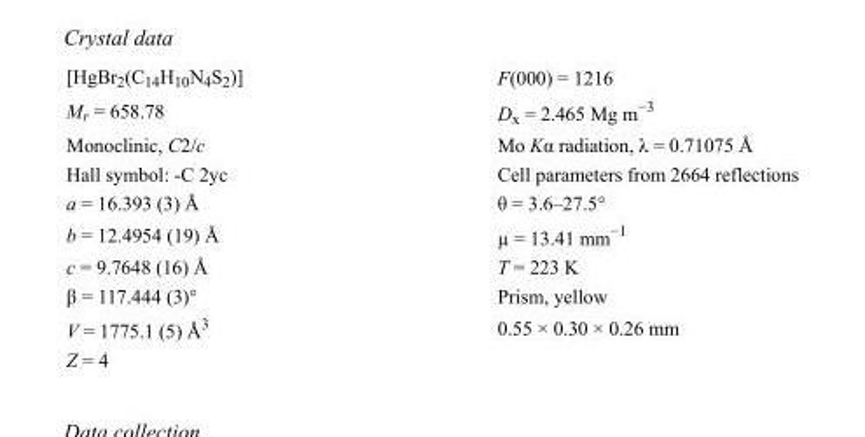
<table><tbody><tr><td>[HgBr<sub>2</sub>(C<sub>14</sub>H<sub>10</sub>N<sub>4</sub>S<sub>2</sub>)]</td><td>F(000) = 1216</td></tr><tr><td>M<sub>r</sub> = 658.78</td><td>D<sub>x</sub> = 2.465 Mg m<sup>−3</sup></td></tr><tr><td>Monoclinic, C2/c</td><td>Mo Kα radiation, λ = 0.71075 Å</td></tr><tr><td>Hall symbol: -C 2yc</td><td>Cell parameters from 2664 reflections</td></tr><tr><td>a = 16.393 (3) Å</td><td>θ = 3.6–27.5°</td></tr><tr><td>b = 12.4954 (19) Å</td><td>µ = 13.41 mm<sup>−1</sup></td></tr><tr><td>c = 9.7648 (16) Å</td><td>T = 223 K</td></tr><tr><td>β = 117.444 (3)°</td><td>Prism, yellow</td></tr><tr><td>V = 1775.1 (5) Å<sup>3</sup></td><td>0.55 × 0.30 × 0.26 mm</td></tr><tr><td>Z = 4</td><td></td></tr></tbody></table>